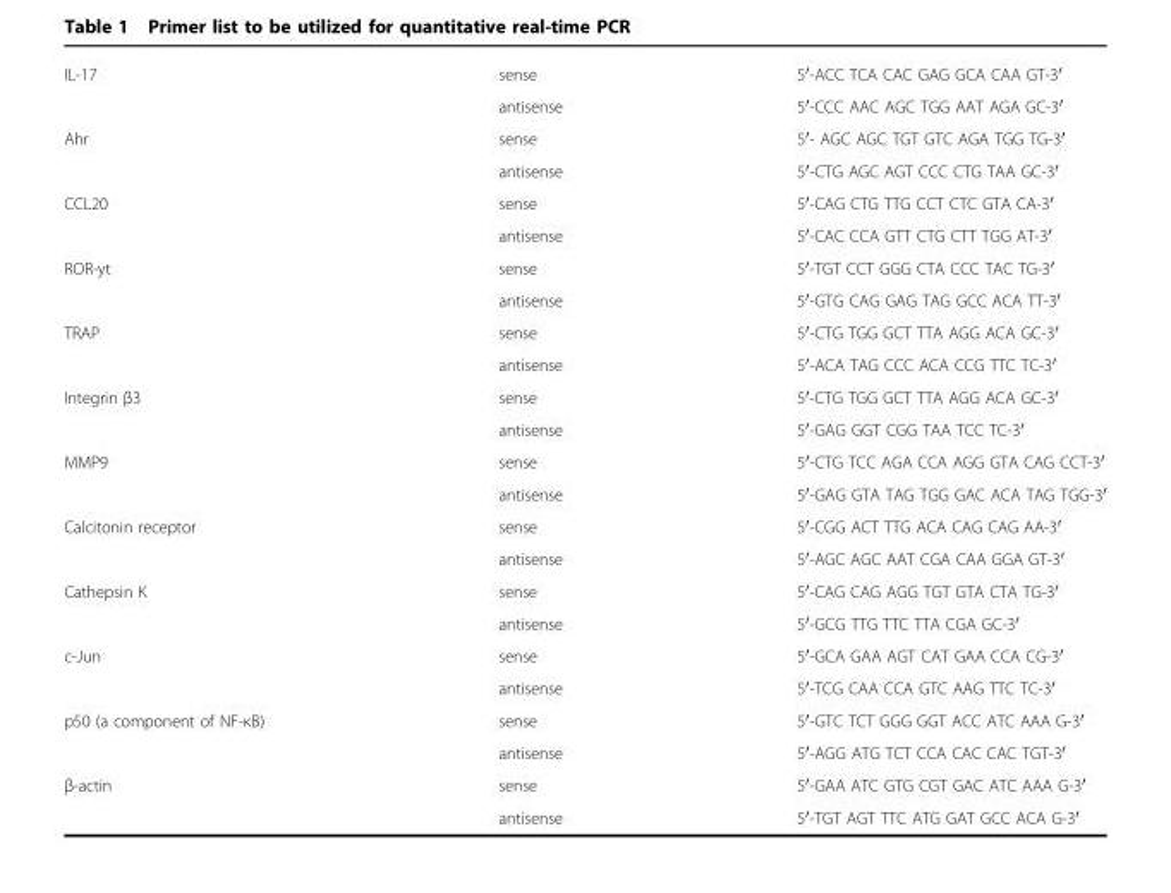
<table><tbody><tr><td rowspan="2">IL-17</td><td>sense</td><td>5′-ACC TCA CAC GAG GCA CAA GT-3′</td></tr><tr><td>antisense</td><td>5′-CCC AAC AGC TGG AAT AGA GC-3′</td></tr><tr><td rowspan="2">Ahr</td><td>sense</td><td>5′- AGC AGC TGT GTC AGA TGG TG-3′</td></tr><tr><td>antisense</td><td>5′-CTG AGC AGT CCC CTG TAA GC-3′</td></tr><tr><td rowspan="2">CCL20</td><td>sense</td><td>5′-CAG CTG TTG CCT CTC GTA CA-3′</td></tr><tr><td>antisense</td><td>5′-CAC CCA GTT CTG CTT TGG AT-3′</td></tr><tr><td rowspan="2">ROR-yt</td><td>sense</td><td>5′-TGT CCT GGG CTA CCC TAC TG-3′</td></tr><tr><td>antisense</td><td>5′-GTG CAG GAG TAG GCC ACA TT-3′</td></tr><tr><td rowspan="2">TRAP</td><td>sense</td><td>5′-CTG TGG GCT TTA AGG ACA GC-3′</td></tr><tr><td>antisense</td><td>5′-ACA TAG CCC ACA CCG TTC TC-3′</td></tr><tr><td rowspan="2">Integrin β3</td><td>sense</td><td>5′-CTG TGG GCT TTA AGG ACA GC-3′</td></tr><tr><td>antisense</td><td>5′-GAG GGT CGG TAA TCC TC-3′</td></tr><tr><td rowspan="2">MMP9</td><td>sense</td><td>5′-CTG TCC AGA CCA AGG GTA CAG CCT-3′</td></tr><tr><td>antisense</td><td>5′-GAG GTA TAG TGG GAC ACA TAG TGG-3′</td></tr><tr><td rowspan="2">Calcitonin receptor</td><td>sense</td><td>5′-CGG ACT TTG ACA CAG CAG AA-3′</td></tr><tr><td>antisense</td><td>5′-AGC AGC AAT CGA CAA GGA GT-3′</td></tr><tr><td rowspan="2">Cathepsin K</td><td>sense</td><td>5′-CAG CAG AGG TGT GTA CTA TG-3′</td></tr><tr><td>antisense</td><td>5′-GCG TTG TTC TTA CGA GC-3′</td></tr><tr><td rowspan="2">c-Jun</td><td>sense</td><td>5′-GCA GAA AGT CAT GAA CCA CG-3′</td></tr><tr><td>antisense</td><td>5′-TCG CAA CCA GTC AAG TTC TC-3′</td></tr><tr><td rowspan="2">p50 (a component of NF-κB)</td><td>sense</td><td>5′-GTC TCT GGG GGT ACC ATC AAA G-3′</td></tr><tr><td>antisense</td><td>5′-AGG ATG TCT CCA CAC CAC TGT-3′</td></tr><tr><td rowspan="2">β-actin</td><td>sense</td><td>5′-GAA ATC GTG CGT GAC ATC AAA G-3′</td></tr><tr><td>antisense</td><td>5′-TGT AGT TTC ATG GAT GCC ACA G-3′</td></tr></tbody></table>